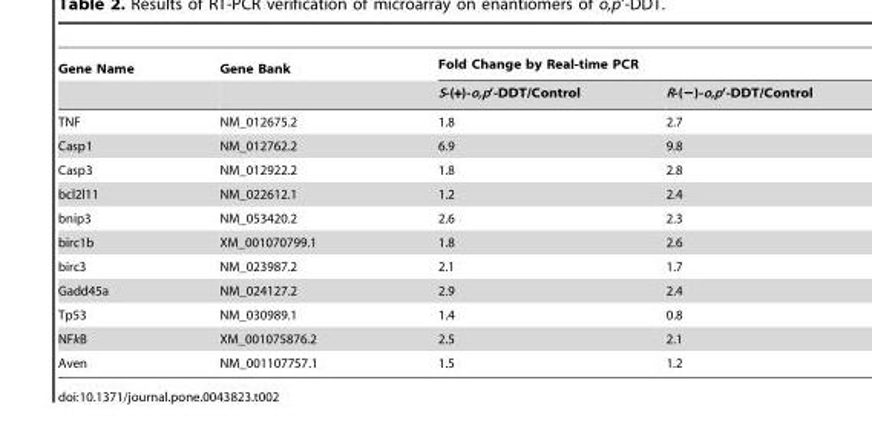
<table><thead><tr><td rowspan="2">Gene Name</td><td rowspan="2">Gene Bank</td><td colspan="2">Fold Change by Real-time PCR</td></tr><tr><td>S-(+)-o,p’-DDT/Control</td><td>R-(−)-o,p’-DDT/Control</td></tr></thead><tbody><tr><td>TNF</td><td>NM_012675.2</td><td>1.8</td><td>2.7</td></tr><tr><td>Casp1</td><td>NM_012762.2</td><td>6.9</td><td>9.8</td></tr><tr><td>Casp3</td><td>NM_012922.2</td><td>1.8</td><td>2.8</td></tr><tr><td>bcl2l11</td><td>NM_022612.1</td><td>1.2</td><td>2.4</td></tr><tr><td>bnip3</td><td>NM_053420.2</td><td>2.6</td><td>2.3</td></tr><tr><td>birc1b</td><td>XM_001070799.1</td><td>1.8</td><td>2.6</td></tr><tr><td>birc3</td><td>NM_023987.2</td><td>2.1</td><td>1.7</td></tr><tr><td>Gadd45a</td><td>NM_024127.2</td><td>2.9</td><td>2.4</td></tr><tr><td>Tp53</td><td>NM_030989.1</td><td>1.4</td><td>0.8</td></tr><tr><td>NFkB</td><td>XM_001075876.2</td><td>2.5</td><td>2.1</td></tr><tr><td>Aven</td><td>NM_001107757.1</td><td>1.5</td><td>1.2</td></tr></tbody></table>